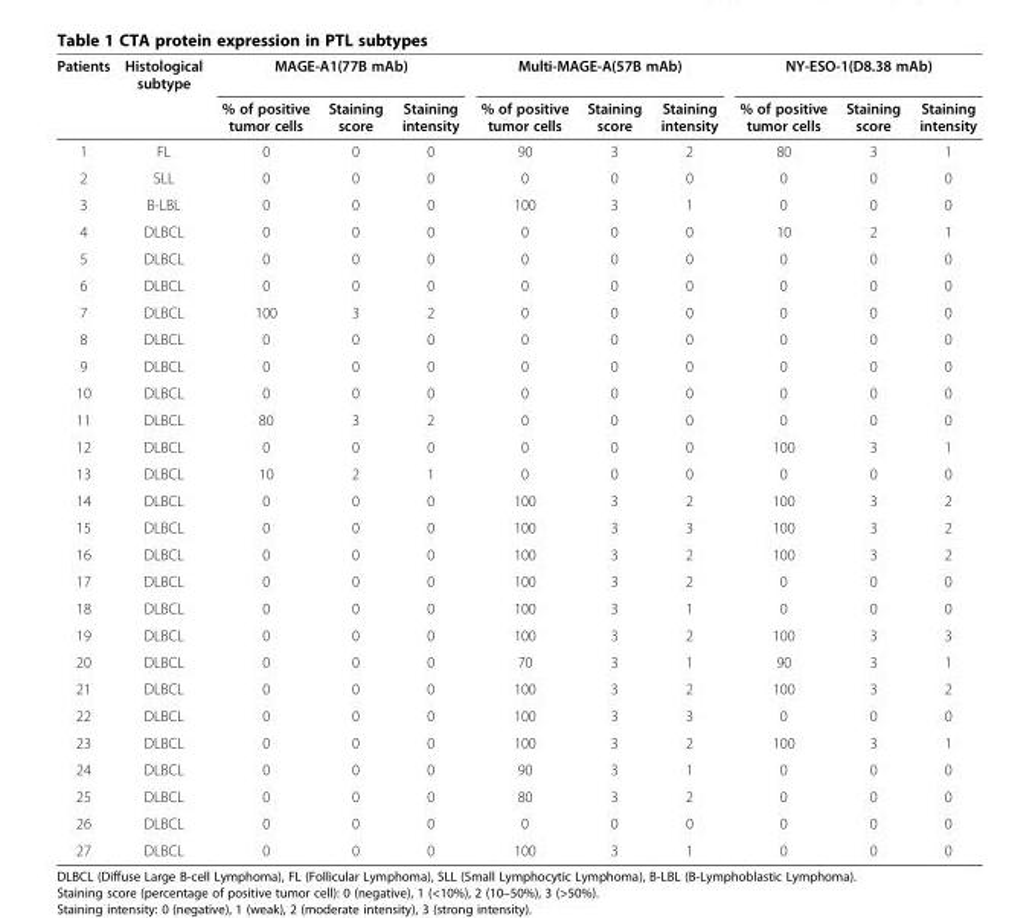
<table><thead><tr><td rowspan="2">Patients</td><td rowspan="2">Histological subtype</td><td colspan="3">MAGE-A1(77B mAb)</td><td colspan="3">Multi-MAGE-A(57B mAb)</td><td colspan="3">NY-ESO-1(D8.38 mAb)</td></tr><tr><td>% of positive tumor cells</td><td>Staining score</td><td>Staining intensity</td><td>% of positive tumor cells</td><td>Staining score</td><td>Staining intensity</td><td>% of positive tumor cells</td><td>Staining score</td><td>Staining intensity</td></tr></thead><tbody><tr><td>1</td><td>FL</td><td>0</td><td>0</td><td>0</td><td>90</td><td>3</td><td>2</td><td>80</td><td>3</td><td>1</td></tr><tr><td>2</td><td>SLL</td><td>0</td><td>0</td><td>0</td><td>0</td><td>0</td><td>0</td><td>0</td><td>0</td><td>0</td></tr><tr><td>3</td><td>B-LBL</td><td>0</td><td>0</td><td>0</td><td>100</td><td>3</td><td>1</td><td>0</td><td>0</td><td>0</td></tr><tr><td>4</td><td>DLBCL</td><td>0</td><td>0</td><td>0</td><td>0</td><td>0</td><td>0</td><td>10</td><td>2</td><td>1</td></tr><tr><td>5</td><td>DLBCL</td><td>0</td><td>0</td><td>0</td><td>0</td><td>0</td><td>0</td><td>0</td><td>0</td><td>0</td></tr><tr><td>6</td><td>DLBCL</td><td>0</td><td>0</td><td>0</td><td>0</td><td>0</td><td>0</td><td>0</td><td>0</td><td>0</td></tr><tr><td>7</td><td>DLBCL</td><td>100</td><td>3</td><td>2</td><td>0</td><td>0</td><td>0</td><td>0</td><td>0</td><td>0</td></tr><tr><td>8</td><td>DLBCL</td><td>0</td><td>0</td><td>0</td><td>0</td><td>0</td><td>0</td><td>0</td><td>0</td><td>0</td></tr><tr><td>9</td><td>DLBCL</td><td>0</td><td>0</td><td>0</td><td>0</td><td>0</td><td>0</td><td>0</td><td>0</td><td>0</td></tr><tr><td>10</td><td>DLBCL</td><td>0</td><td>0</td><td>0</td><td>0</td><td>0</td><td>0</td><td>0</td><td>0</td><td>0</td></tr><tr><td>11</td><td>DLBCL</td><td>80</td><td>3</td><td>2</td><td>0</td><td>0</td><td>0</td><td>0</td><td>0</td><td>0</td></tr><tr><td>12</td><td>DLBCL</td><td>0</td><td>0</td><td>0</td><td>0</td><td>0</td><td>0</td><td>100</td><td>3</td><td>1</td></tr><tr><td>13</td><td>DLBCL</td><td>10</td><td>2</td><td>1</td><td>0</td><td>0</td><td>0</td><td>0</td><td>0</td><td>0</td></tr><tr><td>14</td><td>DLBCL</td><td>0</td><td>0</td><td>0</td><td>100</td><td>3</td><td>2</td><td>100</td><td>3</td><td>2</td></tr><tr><td>15</td><td>DLBCL</td><td>0</td><td>0</td><td>0</td><td>100</td><td>3</td><td>3</td><td>100</td><td>3</td><td>2</td></tr><tr><td>16</td><td>DLBCL</td><td>0</td><td>0</td><td>0</td><td>100</td><td>3</td><td>2</td><td>100</td><td>3</td><td>2</td></tr><tr><td>17</td><td>DLBCL</td><td>0</td><td>0</td><td>0</td><td>100</td><td>3</td><td>2</td><td>0</td><td>0</td><td>0</td></tr><tr><td>18</td><td>DLBCL</td><td>0</td><td>0</td><td>0</td><td>100</td><td>3</td><td>1</td><td>0</td><td>0</td><td>0</td></tr><tr><td>19</td><td>DLBCL</td><td>0</td><td>0</td><td>0</td><td>100</td><td>3</td><td>2</td><td>100</td><td>3</td><td>3</td></tr><tr><td>20</td><td>DLBCL</td><td>0</td><td>0</td><td>0</td><td>70</td><td>3</td><td>1</td><td>90</td><td>3</td><td>1</td></tr><tr><td>21</td><td>DLBCL</td><td>0</td><td>0</td><td>0</td><td>100</td><td>3</td><td>2</td><td>100</td><td>3</td><td>2</td></tr><tr><td>22</td><td>DLBCL</td><td>0</td><td>0</td><td>0</td><td>100</td><td>3</td><td>3</td><td>0</td><td>0</td><td>0</td></tr><tr><td>23</td><td>DLBCL</td><td>0</td><td>0</td><td>0</td><td>100</td><td>3</td><td>2</td><td>100</td><td>3</td><td>1</td></tr><tr><td>24</td><td>DLBCL</td><td>0</td><td>0</td><td>0</td><td>90</td><td>3</td><td>1</td><td>0</td><td>0</td><td>0</td></tr><tr><td>25</td><td>DLBCL</td><td>0</td><td>0</td><td>0</td><td>80</td><td>3</td><td>2</td><td>0</td><td>0</td><td>0</td></tr><tr><td>26</td><td>DLBCL</td><td>0</td><td>0</td><td>0</td><td>0</td><td>0</td><td>0</td><td>0</td><td>0</td><td>0</td></tr><tr><td>27</td><td>DLBCL</td><td>0</td><td>0</td><td>0</td><td>100</td><td>3</td><td>1</td><td>0</td><td>0</td><td>0</td></tr></tbody></table>